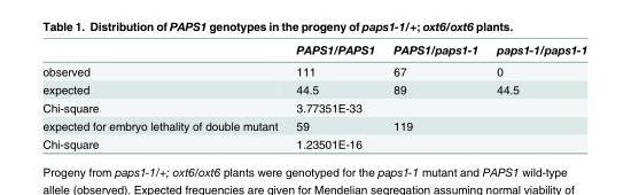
<table><thead><tr><td></td><td>PAPS1/PAPS1</td><td>PAPS1/paps1-1</td><td>paps1-1/paps1-1</td></tr></thead><tbody><tr><td>observed</td><td>111</td><td>67</td><td>0</td></tr><tr><td>expected</td><td>44.5</td><td>89</td><td>44.5</td></tr><tr><td>Chi-square</td><td>3.77351E-33</td><td></td><td></td></tr><tr><td>expected for embryo lethality of double mutant</td><td>59</td><td>119</td><td></td></tr><tr><td>Chi-square</td><td>1.23501E-16</td><td></td><td></td></tr></tbody></table>